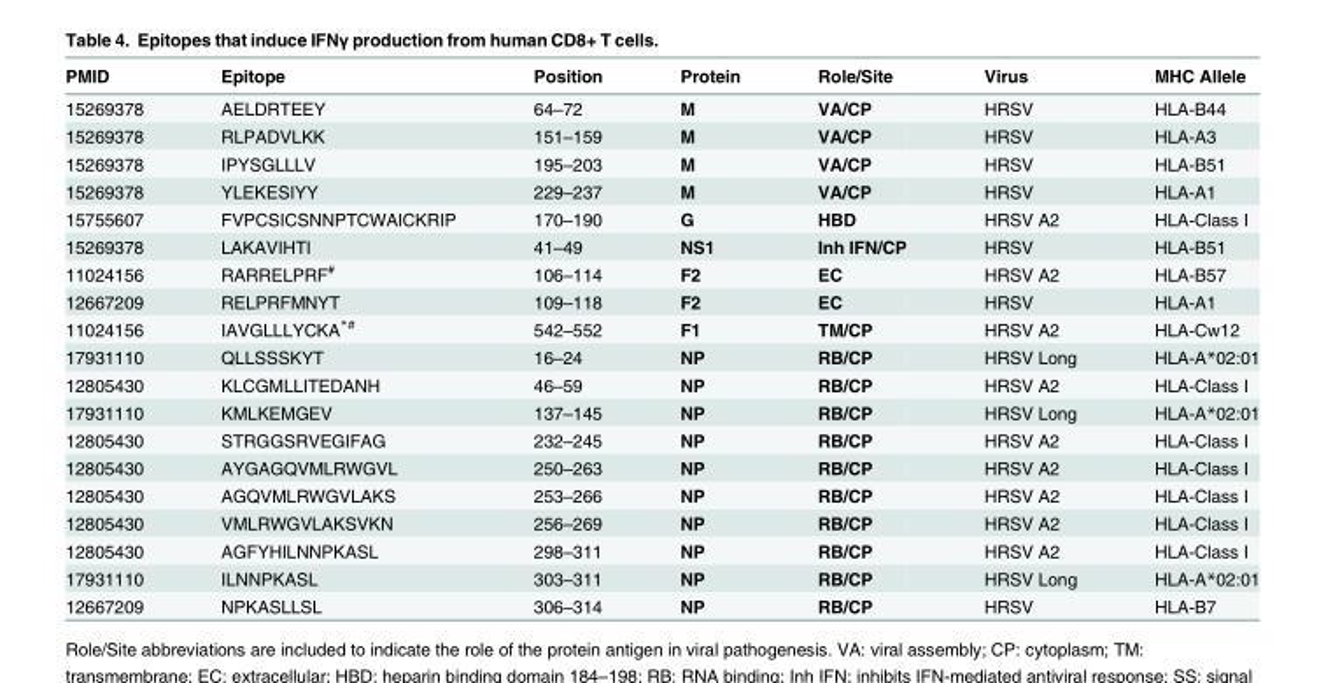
<table><thead><tr><td>PMID</td><td>Epitope</td><td>Position</td><td>Protein</td><td>Role/Site</td><td>Virus</td><td>MHC Allele</td></tr></thead><tbody><tr><td>15269378</td><td>AELDRTEEY</td><td>64–72</td><td>M</td><td>VA/CP</td><td>HRSV</td><td>HLA-B44</td></tr><tr><td>15269378</td><td>RLPADVLKK</td><td>151–159</td><td>M</td><td>VA/CP</td><td>HRSV</td><td>HLA-A3</td></tr><tr><td>15269378</td><td>IPYSGLLLV</td><td>195–203</td><td>M</td><td>VA/CP</td><td>HRSV</td><td>HLA-B51</td></tr><tr><td>15269378</td><td>YLEKESIYY</td><td>229–237</td><td>M</td><td>VA/CP</td><td>HRSV</td><td>HLA-A1</td></tr><tr><td>15755607</td><td>FVPCSICSNNPTCWAICKRIP</td><td>170–190</td><td>G</td><td>HBD</td><td>HRSV A2</td><td>HLA-Class I</td></tr><tr><td>15269378</td><td>LAKAVIHTI</td><td>41–49</td><td>NS1</td><td>Inh IFN/CP</td><td>HRSV</td><td>HLA-B51</td></tr><tr><td>11024156</td><td>RARRELPRF<sup>#</sup></td><td>106–114</td><td>F2</td><td>EC</td><td>HRSV A2</td><td>HLA-B57</td></tr><tr><td>12667209</td><td>RELPRFMNYT</td><td>109–118</td><td>F2</td><td>EC</td><td>HRSV</td><td>HLA-A1</td></tr><tr><td>11024156</td><td>IAVGLLLYCKA<sup>*#</sup></td><td>542–552</td><td>F1</td><td>TM/CP</td><td>HRSV A2</td><td>HLA-Cw12</td></tr><tr><td>17931110</td><td>QLLSSSKYT</td><td>16–24</td><td>NP</td><td>RB/CP</td><td>HRSV Long</td><td>HLA-A*02:01</td></tr><tr><td>12805430</td><td>KLCGMLLITEDANH</td><td>46–59</td><td>NP</td><td>RB/CP</td><td>HRSV A2</td><td>HLA-Class I</td></tr><tr><td>17931110</td><td>KMLKEMGEV</td><td>137–145</td><td>NP</td><td>RB/CP</td><td>HRSV Long</td><td>HLA-A*02:01</td></tr><tr><td>12805430</td><td>STRGGSRVEGIFAG</td><td>232–245</td><td>NP</td><td>RB/CP</td><td>HRSV A2</td><td>HLA-Class I</td></tr><tr><td>12805430</td><td>AYGAGQVMLRWGVL</td><td>250–263</td><td>NP</td><td>RB/CP</td><td>HRSV A2</td><td>HLA-Class I</td></tr><tr><td>12805430</td><td>AGQVMLRWGVLAKS</td><td>253–266</td><td>NP</td><td>RB/CP</td><td>HRSV A2</td><td>HLA-Class I</td></tr><tr><td>12805430</td><td>VMLRWGVLAKSVKN</td><td>256–269</td><td>NP</td><td>RB/CP</td><td>HRSV A2</td><td>HLA-Class I</td></tr><tr><td>12805430</td><td>AGFYHILNNPKASL</td><td>298–311</td><td>NP</td><td>RB/CP</td><td>HRSV A2</td><td>HLA-Class I</td></tr><tr><td>17931110</td><td>ILNNPKASL</td><td>303–311</td><td>NP</td><td>RB/CP</td><td>HRSV Long</td><td>HLA-A*02:01</td></tr><tr><td>12667209</td><td>NPKASLLSL</td><td>306–314</td><td>NP</td><td>RB/CP</td><td>HRSV</td><td>HLA-B7</td></tr></tbody></table>